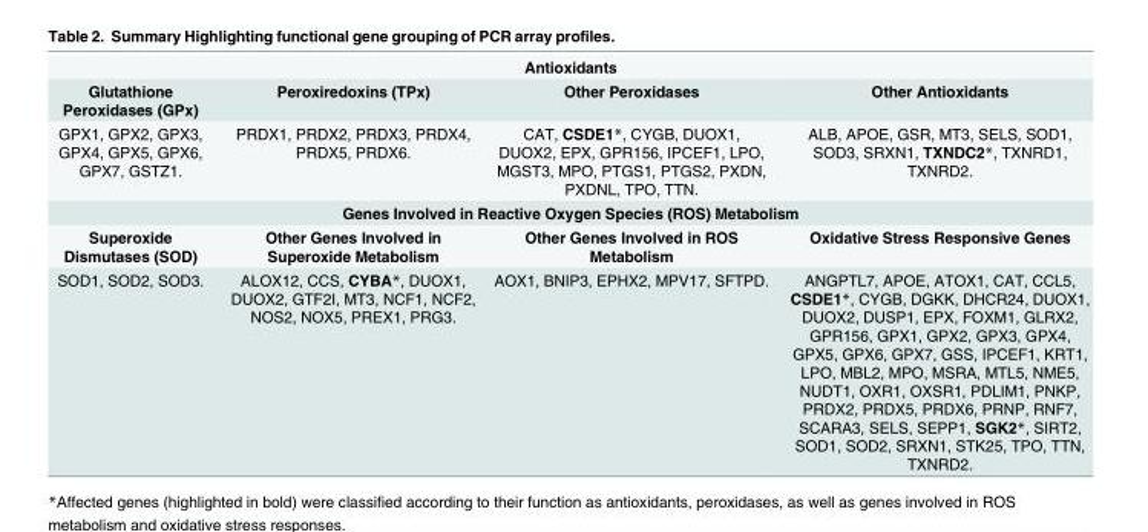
<table><tbody><tr><td colspan="4">Antioxidants</td></tr><tr><td>Glutathione Peroxidases (GPx)</td><td>Peroxiredoxins (TPx)</td><td>Other Peroxidases</td><td>Other Antioxidants</td></tr><tr><td>GPX1, GPX2, GPX3, GPX4, GPX5, GPX6, GPX7, GSTZ1.</td><td>PRDX1, PRDX2, PRDX3, PRDX4, PRDX5, PRDX6.</td><td>CAT, CSDE1*, CYGB, DUOX1, DUOX2, EPX, GPR156, IPCEF1, LPO, MGST3, MPO, PTGS1, PTGS2, PXDN, PXDNL, TPO, TTN.</td><td>ALB, APOE, GSR, MT3, SELS, SOD1, SOD3, SRXN1, TXNDC2*, TXNRD1, TXNRD2.</td></tr><tr><td colspan="4">Genes Involved in Reactive Oxygen Species (ROS) Metabolism</td></tr><tr><td>Superoxide Dismutases (SOD)</td><td>Other Genes Involved in Superoxide Metabolism</td><td>Other Genes Involved in ROS Metabolism</td><td>Oxidative Stress Responsive Genes</td></tr><tr><td>SOD1, SOD2, SOD3.</td><td>ALOX12, CCS, CYBA*, DUOX1, DUOX2, GTF2I, MT3, NCF1, NCF2, NOS2, NOX5, PREX1, PRG3.</td><td>AOX1, BNIP3, EPHX2, MPV17, SFTPD.</td><td>ANGPTL7, APOE, ATOX1, CAT, CCL5, CSDE1*, CYGB, DGKK, DHCR24, DUOX1, DUOX2, DUSP1, EPX, FOXM1, GLRX2, GPR156, GPX1, GPX2, GPX3, GPX4, GPX5, GPX6, GPX7, GSS, IPCEF1, KRT1, LPO, MBL2, MPO, MSRA, MTL5, NME5, NUDT1, OXR1, OXSR1, PDLIM1, PNKP, PRDX2, PRDX5, PRDX6, PRNP, RNF7, SCARA3, SELS, SEPP1, SGK2*, SIRT2, SOD1, SOD2, SRXN1, STK25, TPO, TTN, TXNRD2.</td></tr></tbody></table>